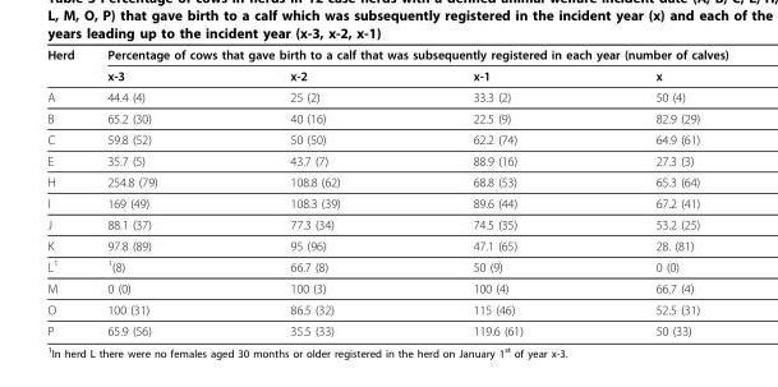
<table><thead><tr><td rowspan="2">Herd</td><td colspan="4">Percentage of cows that gave birth to a calf that was subsequently registered in each year (number of calves)</td></tr><tr><td>x-3</td><td>x-2</td><td>x-1</td><td>x</td></tr></thead><tbody><tr><td>A</td><td>44.4 (4)</td><td>25 (2)</td><td>33.3 (2)</td><td>50 (4)</td></tr><tr><td>B</td><td>65.2 (30)</td><td>40 (16)</td><td>22.5 (9)</td><td>82.9 (29)</td></tr><tr><td>C</td><td>59.8 (52)</td><td>50 (50)</td><td>62.2 (74)</td><td>64.9 (61)</td></tr><tr><td>E</td><td>35.7 (5)</td><td>43.7 (7)</td><td>88.9 (16)</td><td>27.3 (3)</td></tr><tr><td>H</td><td>254.8 (79)</td><td>108.8 (62)</td><td>68.8 (53)</td><td>65.3 (64)</td></tr><tr><td>I</td><td>169 (49)</td><td>108.3 (39)</td><td>89.6 (44)</td><td>67.2 (41)</td></tr><tr><td>J</td><td>88.1 (37)</td><td>77.3 (34)</td><td>74.5 (35)</td><td>53.2 (25)</td></tr><tr><td>K</td><td>97.8 (89)</td><td>95 (96)</td><td>47.1 (65)</td><td>28. (81)</td></tr><tr><td>L<sup>1</sup></td><td><sup>1</sup>(8)</td><td>66.7 (8)</td><td>50 (9)</td><td>0 (0)</td></tr><tr><td>M</td><td>0 (0)</td><td>100 (3)</td><td>100 (4)</td><td>66.7 (4)</td></tr><tr><td>O</td><td>100 (31)</td><td>86.5 (32)</td><td>115 (46)</td><td>52.5 (31)</td></tr><tr><td>P</td><td>65.9 (56)</td><td>35.5 (33)</td><td>119.6 (61)</td><td>50 (33)</td></tr></tbody></table>